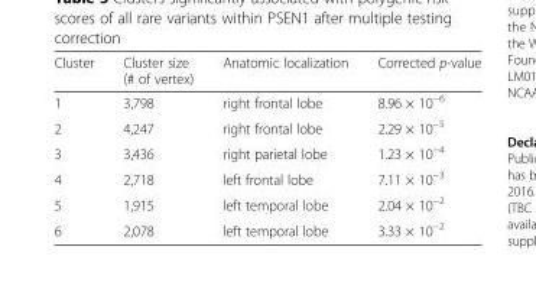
<table><thead><tr><td>Cluster</td><td>Cluster size (# of vertex)</td><td>Anatomic localization</td><td>Corrected p-value</td></tr></thead><tbody><tr><td>1</td><td>3,798</td><td>right frontal lobe</td><td>8.96 × 10<sup>−6</sup></td></tr><tr><td>2</td><td>4,247</td><td>right frontal lobe</td><td>2.29 × 10<sup>−5</sup></td></tr><tr><td>3</td><td>3,436</td><td>right parietal lobe</td><td>1.23 × 10<sup>−4</sup></td></tr><tr><td>4</td><td>2,718</td><td>left frontal lobe</td><td>7.11 × 10<sup>−3</sup></td></tr><tr><td>5</td><td>1,915</td><td>left temporal lobe</td><td>2.04 × 10<sup>−2</sup></td></tr><tr><td>6</td><td>2,078</td><td>left temporal lobe</td><td>3.33 × 10<sup>−2</sup></td></tr></tbody></table>